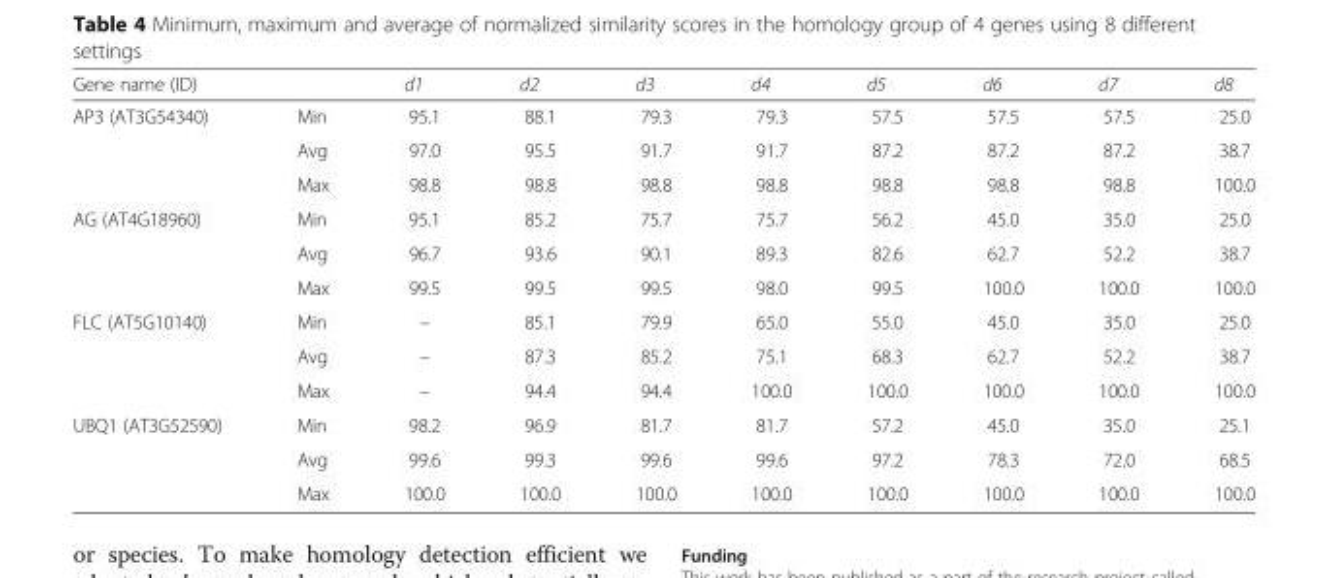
<table><thead><tr><td>Gene name (ID)</td><td></td><td>d1</td><td>d2</td><td>d3</td><td>d4</td><td>d5</td><td>d6</td><td>d7</td><td>d8</td></tr></thead><tbody><tr><td rowspan="3">AP3 (AT3G54340)</td><td>Min</td><td>95.1</td><td>88.1</td><td>79.3</td><td>79.3</td><td>57.5</td><td>57.5</td><td>57.5</td><td>25.0</td></tr><tr><td>Avg</td><td>97.0</td><td>95.5</td><td>91.7</td><td>91.7</td><td>87.2</td><td>87.2</td><td>87.2</td><td>38.7</td></tr><tr><td>Max</td><td>98.8</td><td>98.8</td><td>98.8</td><td>98.8</td><td>98.8</td><td>98.8</td><td>98.8</td><td>100.0</td></tr><tr><td rowspan="3">AG (AT4G18960)</td><td>Min</td><td>95.1</td><td>85.2</td><td>75.7</td><td>75.7</td><td>56.2</td><td>45.0</td><td>35.0</td><td>25.0</td></tr><tr><td>Avg</td><td>96.7</td><td>93.6</td><td>90.1</td><td>89.3</td><td>82.6</td><td>62.7</td><td>52.2</td><td>38.7</td></tr><tr><td>Max</td><td>99.5</td><td>99.5</td><td>99.5</td><td>98.0</td><td>99.5</td><td>100.0</td><td>100.0</td><td>100.0</td></tr><tr><td rowspan="3">FLC (AT5G10140)</td><td>Min</td><td>–</td><td>85.1</td><td>79.9</td><td>65.0</td><td>55.0</td><td>45.0</td><td>35.0</td><td>25.0</td></tr><tr><td>Avg</td><td>–</td><td>87.3</td><td>85.2</td><td>75.1</td><td>68.3</td><td>62.7</td><td>52.2</td><td>38.7</td></tr><tr><td>Max</td><td>–</td><td>94.4</td><td>94.4</td><td>100.0</td><td>100.0</td><td>100.0</td><td>100.0</td><td>100.0</td></tr><tr><td rowspan="3">UBQ1 (AT3G52590)</td><td>Min</td><td>98.2</td><td>96.9</td><td>81.7</td><td>81.7</td><td>57.2</td><td>45.0</td><td>35.0</td><td>25.1</td></tr><tr><td>Avg</td><td>99.6</td><td>99.3</td><td>99.6</td><td>99.6</td><td>97.2</td><td>78.3</td><td>72.0</td><td>68.5</td></tr><tr><td>Max</td><td>100.0</td><td>100.0</td><td>100.0</td><td>100.0</td><td>100.0</td><td>100.0</td><td>100.0</td><td>100.0</td></tr></tbody></table>